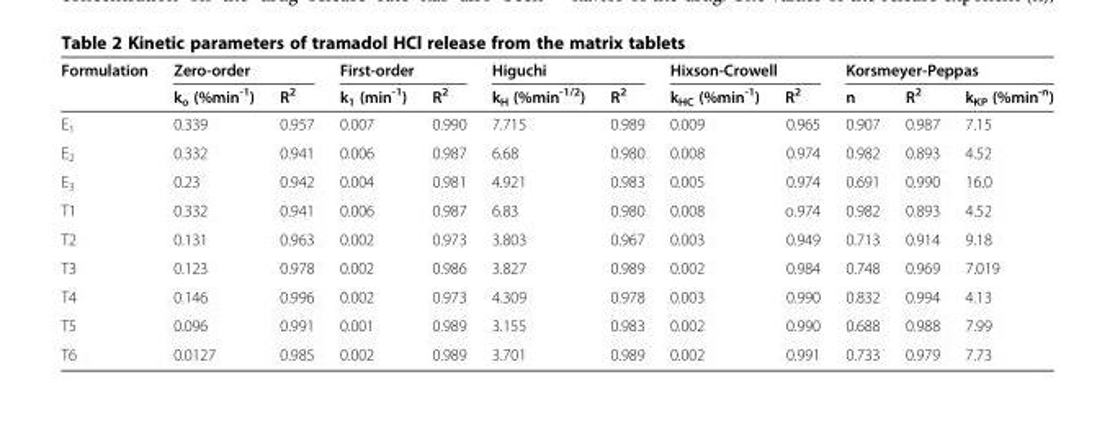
<table><thead><tr><td rowspan="2">Formulation</td><td colspan="2">Zero-order</td><td colspan="2">First-order</td><td colspan="2">Higuchi</td><td colspan="2">Hixson-Crowell</td><td colspan="3">Korsmeyer-Peppas</td></tr><tr><td>k<sub>o</sub> (%min<sup>-1</sup>)</td><td>R<sup>2</sup></td><td>k<sub>1</sub> (min<sup>-1</sup>)</td><td>R<sup>2</sup></td><td>k<sub>H</sub> (%min<sup>-1/2</sup>)</td><td>R<sup>2</sup></td><td>k<sub>HC</sub> (%min<sup>-1</sup>)</td><td>R<sup>2</sup></td><td>n</td><td>R<sup>2</sup></td><td>k<sub>KP</sub> (%min<sup>-n</sup>)</td></tr></thead><tbody><tr><td>E<sub>1</sub></td><td>0.339</td><td>0.957</td><td>0.007</td><td>0.990</td><td>7.715</td><td>0.989</td><td>0.009</td><td>0.965</td><td>0.907</td><td>0.987</td><td>7.15</td></tr><tr><td>E<sub>2</sub></td><td>0.332</td><td>0.941</td><td>0.006</td><td>0.987</td><td>6.68</td><td>0.980</td><td>0.008</td><td>0.974</td><td>0.982</td><td>0.893</td><td>4.52</td></tr><tr><td>E<sub>3</sub></td><td>0.23</td><td>0.942</td><td>0.004</td><td>0.981</td><td>4.921</td><td>0.983</td><td>0.005</td><td>0.974</td><td>0.691</td><td>0.990</td><td>16.0</td></tr><tr><td>T1</td><td>0.332</td><td>0.941</td><td>0.006</td><td>0.987</td><td>6.83</td><td>0.980</td><td>0.008</td><td>o.974</td><td>0.982</td><td>0.893</td><td>4.52</td></tr><tr><td>T2</td><td>0.131</td><td>0.963</td><td>0.002</td><td>0.973</td><td>3.803</td><td>0.967</td><td>0.003</td><td>0.949</td><td>0.713</td><td>0.914</td><td>9.18</td></tr><tr><td>T3</td><td>0.123</td><td>0.978</td><td>0.002</td><td>0.986</td><td>3.827</td><td>0.989</td><td>0.002</td><td>0.984</td><td>0.748</td><td>0.969</td><td>7.019</td></tr><tr><td>T4</td><td>0.146</td><td>0.996</td><td>0.002</td><td>0.973</td><td>4.309</td><td>0.978</td><td>0.003</td><td>0.990</td><td>0.832</td><td>0.994</td><td>4.13</td></tr><tr><td>T5</td><td>0.096</td><td>0.991</td><td>0.001</td><td>0.989</td><td>3.155</td><td>0.983</td><td>0.002</td><td>0.990</td><td>0.688</td><td>0.988</td><td>7.99</td></tr><tr><td>T6</td><td>0.0127</td><td>0.985</td><td>0.002</td><td>0.989</td><td>3.701</td><td>0.989</td><td>0.002</td><td>0.991</td><td>0.733</td><td>0.979</td><td>7.73</td></tr></tbody></table>